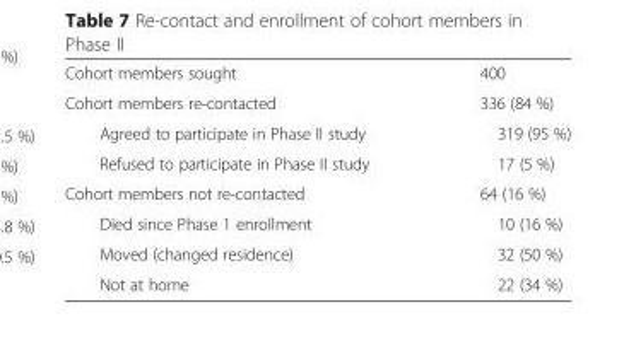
<table><tbody><tr><td>Cohort members sought</td><td>400</td></tr><tr><td>Cohort members re-contacted</td><td>336 (84 %)</td></tr><tr><td>Agreed to participate in Phase II study</td><td>319 (95 %)</td></tr><tr><td>Refused to participate in Phase II study</td><td>17 (5 %)</td></tr><tr><td>Cohort members not re-contacted</td><td>64 (16 %)</td></tr><tr><td>Died since Phase 1 enrollment</td><td>10 (16 %)</td></tr><tr><td>Moved (changed residence)</td><td>32 (50 %)</td></tr><tr><td>Not at home</td><td>22 (34 %)</td></tr></tbody></table>